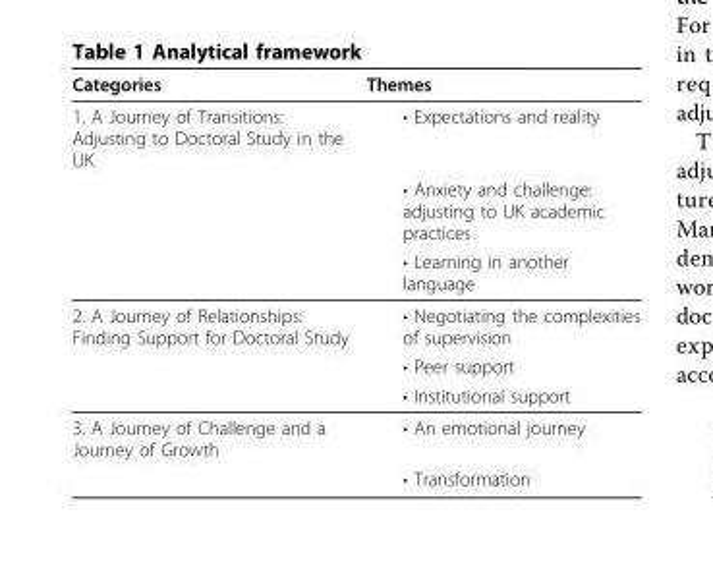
<table><thead><tr><td>Categories</td><td>Themes</td></tr></thead><tbody><tr><td rowspan="3">1. A Journey of Transitions: Adjusting to Doctoral Study in the UK</td><td>• Expectations and reality</td></tr><tr><td>• Anxiety and challenge: adjusting to UK academic practices</td></tr><tr><td>• Learning in another language</td></tr><tr><td rowspan="3">2. A Journey of Relationships: Finding Support for Doctoral Study</td><td>• Negotiating the complexities of supervision</td></tr><tr><td>• Peer support</td></tr><tr><td>• Institutional support</td></tr><tr><td rowspan="2">3. A Journey of Challenge and a Journey of Growth</td><td>• An emotional journey</td></tr><tr><td>• Transformation</td></tr></tbody></table>